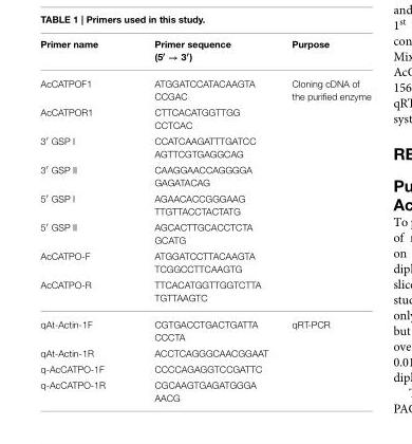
<table><thead><tr><td>Primer name</td><td>Primer sequence (5′ → 3′)</td><td>Purpose</td></tr></thead><tbody><tr><td>AcCATPOF1</td><td>ATGGATCCATACAAGTA CCGAC</td><td>Cloning cDNA of the purified enzyme</td></tr><tr><td>AcCATPOR1</td><td>CTTCACATGGTTGG CCTCAC</td><td></td></tr><tr><td>3′ GSP I</td><td>CCATCAAGATTTGATCC AGTTCGTGAGGCAG</td><td></td></tr><tr><td>3′ GSP II</td><td>CAAGGAACCAGGGGA GAGATACAG</td><td></td></tr><tr><td>5′ GSP I</td><td>AGAACACCGGGAAG TTGTTACCTACTATG</td><td></td></tr><tr><td>5′ GSP II</td><td>AGCACTTGCACCTCTA GCATG</td><td></td></tr><tr><td>AcCATPO-F</td><td>ATGGATCCTTACAAGTA TCGGCCTTCAAGTG</td><td></td></tr><tr><td>AcCATPO-R</td><td>TTCACATGGTTGGTCTTA TGTTAAGTC</td><td></td></tr><tr><td>qAt-Actin-1F</td><td>CGTGACCTGACTGATTA CCCTA</td><td>qRT-PCR</td></tr><tr><td>qAt-Actin-1R</td><td>ACCTCAGGGCAACGGAAT</td><td></td></tr><tr><td>q-AcCATPO-1F</td><td>CCCCAGAGGTCCGATTC</td><td></td></tr><tr><td>q-AcCATPO-1R</td><td>CGCAAGTGAGATGGGA AACG</td><td></td></tr></tbody></table>